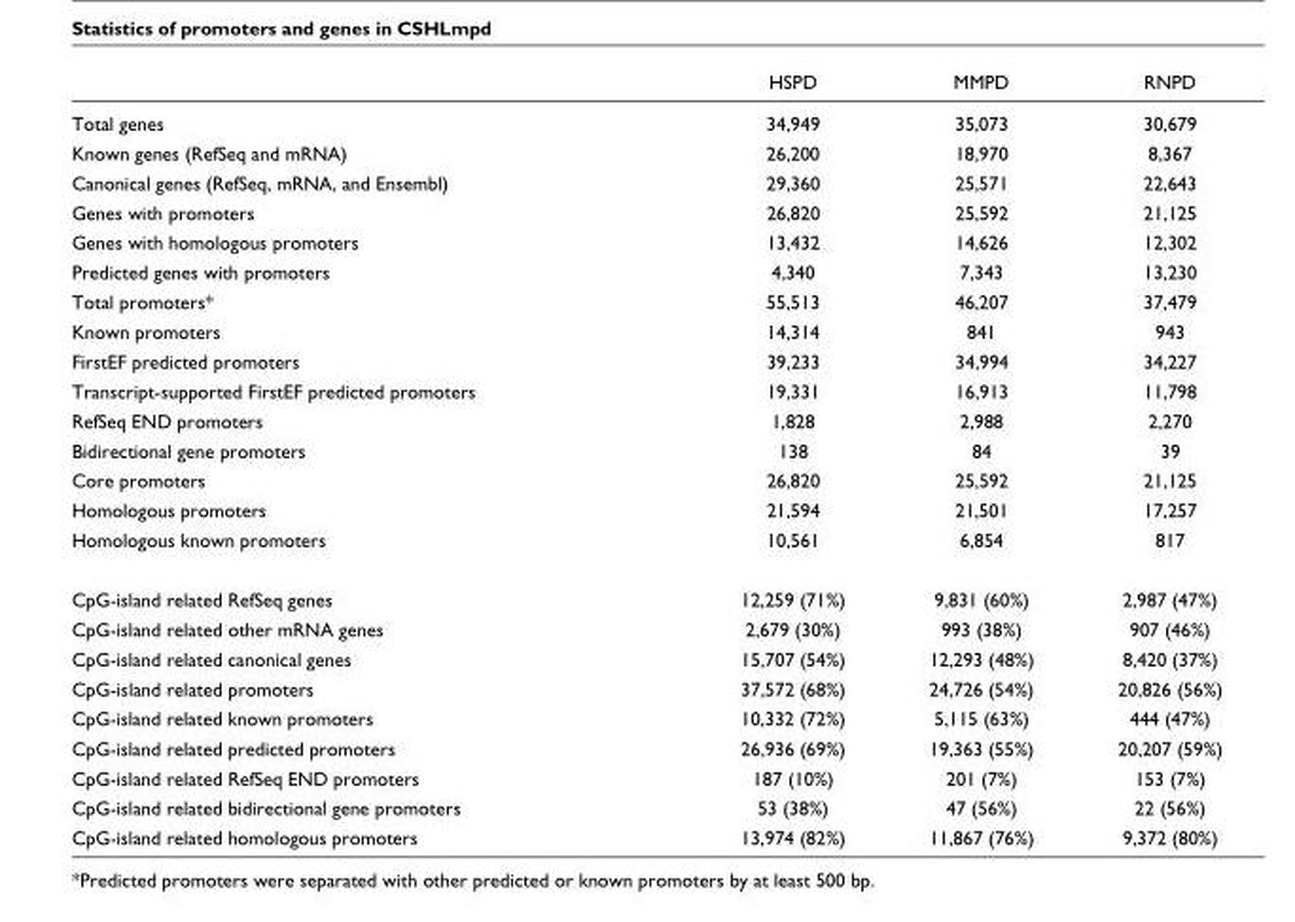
<table><thead><tr><td></td><td>HSPD</td><td>MMPD</td><td>RNPD</td></tr></thead><tbody><tr><td>Total genes</td><td>34,949</td><td>35,073</td><td>30,679</td></tr><tr><td>Known genes (RefSeq and mRNA)</td><td>26,200</td><td>18,970</td><td>8,367</td></tr><tr><td>Canonical genes (RefSeq, mRNA, and Ensembl)</td><td>29,360</td><td>25,571</td><td>22,643</td></tr><tr><td>Genes with promoters</td><td>26,820</td><td>25,592</td><td>21,125</td></tr><tr><td>Genes with homologous promoters</td><td>13,432</td><td>14,626</td><td>12,302</td></tr><tr><td>Predicted genes with promoters</td><td>4,340</td><td>7,343</td><td>13,230</td></tr><tr><td>Total promoters*</td><td>55,513</td><td>46,207</td><td>37,479</td></tr><tr><td>Known promoters</td><td>14,314</td><td>841</td><td>943</td></tr><tr><td>FirstEF predicted promoters</td><td>39,233</td><td>34,994</td><td>34,227</td></tr><tr><td>Transcript-supported FirstEF predicted promoters</td><td>19,331</td><td>16,913</td><td>11,798</td></tr><tr><td>RefSeq END promoters</td><td>1,828</td><td>2,988</td><td>2,270</td></tr><tr><td>Bidirectional gene promoters</td><td>138</td><td>84</td><td>39</td></tr><tr><td>Core promoters</td><td>26,820</td><td>25,592</td><td>21,125</td></tr><tr><td>Homologous promoters</td><td>21,594</td><td>21,501</td><td>17,257</td></tr><tr><td>Homologous known promoters</td><td>10,561</td><td>6,854</td><td>817</td></tr><tr><td>CpG-island related RefSeq genes</td><td>12,259 (71%)</td><td>9,831 (60%)</td><td>2,987 (47%)</td></tr><tr><td>CpG-island related other mRNA genes</td><td>2,679 (30%)</td><td>993 (38%)</td><td>907 (46%)</td></tr><tr><td>CpG-island related canonical genes</td><td>15,707 (54%)</td><td>12,293 (48%)</td><td>8,420 (37%)</td></tr><tr><td>CpG-island related promoters</td><td>37,572 (68%)</td><td>24,726 (54%)</td><td>20,826 (56%)</td></tr><tr><td>CpG-island related known promoters</td><td>10,332 (72%)</td><td>5,115 (63%)</td><td>444 (47%)</td></tr><tr><td>CpG-island related predicted promoters</td><td>26,936 (69%)</td><td>19,363 (55%)</td><td>20,207 (59%)</td></tr><tr><td>CpG-island related RefSeq END promoters</td><td>187 (10%)</td><td>201 (7%)</td><td>153 (7%)</td></tr><tr><td>CpG-island related bidirectional gene promoters</td><td>53 (38%)</td><td>47 (56%)</td><td>22 (56%)</td></tr><tr><td>CpG-island related homologous promoters</td><td>13,974 (82%)</td><td>11,867 (76%)</td><td>9,372 (80%)</td></tr></tbody></table>